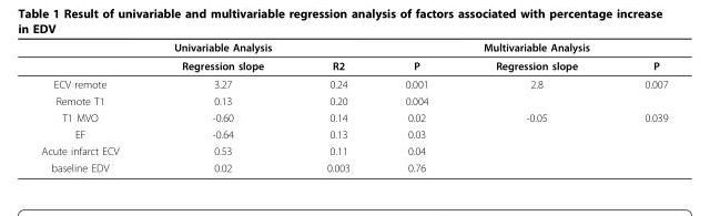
<table><thead><tr><td rowspan="2"></td><td rowspan="2">Univariable Analysis Regression slope</td><td rowspan="2">R2</td><td rowspan="2">P</td><td rowspan="2">Multivariable Analysis Regression slope</td><td rowspan="2">P</td></tr><tr></tr></thead><tbody><tr><td>ECV remote</td><td>3.27</td><td>0.24</td><td>0.001</td><td>2.8</td><td>0.007</td></tr><tr><td>Remote T1</td><td>0.13</td><td>0.20</td><td>0.004</td><td></td><td></td></tr><tr><td>T1 MVO</td><td>-0.60</td><td>0.14</td><td>0.02</td><td>-0.05</td><td>0.039</td></tr><tr><td>EF</td><td>-0.64</td><td>0.13</td><td>0.03</td><td></td><td></td></tr><tr><td>Acute infarct ECV</td><td>0.53</td><td>0.11</td><td>0.04</td><td></td><td></td></tr><tr><td>baseline EDV</td><td>0.02</td><td>0.003</td><td>0.76</td><td></td><td></td></tr></tbody></table>